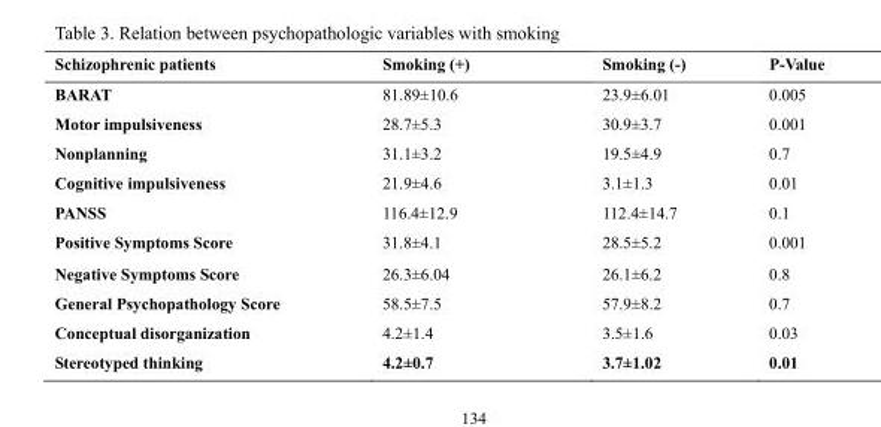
<table><thead><tr><td>Schizophrenic patients</td><td>Smoking (+)</td><td>Smoking (-)</td><td>P-Value</td></tr></thead><tbody><tr><td>BARAT</td><td>81.89±10.6</td><td>23.9±6.01</td><td>0.005</td></tr><tr><td>Motor impulsiveness</td><td>28.7±5.3</td><td>30.9±3.7</td><td>0.001</td></tr><tr><td>Nonplanning</td><td>31.1±3.2</td><td>19.5±4.9</td><td>0.7</td></tr><tr><td>Cognitive impulsiveness</td><td>21.9±4.6</td><td>3.1±1.3</td><td>0.01</td></tr><tr><td>PANSS</td><td>116.4±12.9</td><td>112.4±14.7</td><td>0.1</td></tr><tr><td>Positive Symptoms Score</td><td>31.8±4.1</td><td>28.5±5.2</td><td>0.001</td></tr><tr><td>Negative Symptoms Score</td><td>26.3±6.04</td><td>26.1±6.2</td><td>0.8</td></tr><tr><td>General Psychopathology Score</td><td>58.5±7.5</td><td>57.9±8.2</td><td>0.7</td></tr><tr><td>Conceptual disorganization</td><td>4.2±1.4</td><td>3.5±1.6</td><td>0.03</td></tr><tr><td>Stereotyped thinking</td><td>4.2±0.7</td><td>3.7±1.02</td><td>0.01</td></tr></tbody></table>